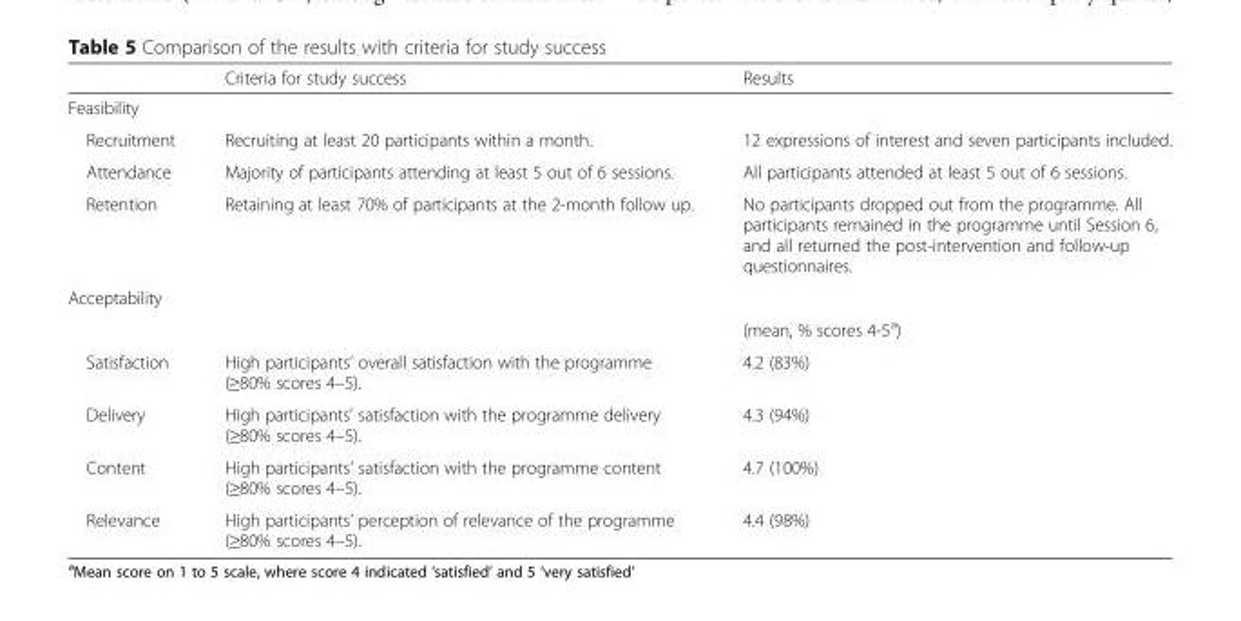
<table><thead><tr><td></td><td>Criteria for study success</td><td>Results</td></tr></thead><tbody><tr><td colspan="3">Feasibility</td></tr><tr><td>Recruitment</td><td>Recruiting at least 20 participants within a month.</td><td>12 expressions of interest and seven participants included.</td></tr><tr><td>Attendance</td><td>Majority of participants attending at least 5 out of 6 sessions.</td><td>All participants attended at least 5 out of 6 sessions.</td></tr><tr><td>Retention</td><td>Retaining at least 70% of participants at the 2-month follow up.</td><td>No participants dropped out from the programme. All participants remained in the programme until Session 6, and all returned the post-intervention and follow-up questionnaires.</td></tr><tr><td colspan="3">Acceptability</td></tr><tr><td></td><td></td><td>(mean, % scores 4-5<sup>a</sup>)</td></tr><tr><td>Satisfaction</td><td>High participants’ overall satisfaction with the programme (≥80% scores 4–5).</td><td>4.2 (83%)</td></tr><tr><td>Delivery</td><td>High participants’ satisfaction with the programme delivery (≥80% scores 4–5).</td><td>4.3 (94%)</td></tr><tr><td>Content</td><td>High participants’ satisfaction with the programme content (≥80% scores 4–5).</td><td>4.7 (100%)</td></tr><tr><td>Relevance</td><td>High participants’ perception of relevance of the programme (≥80% scores 4–5).</td><td>4.4 (98%)</td></tr></tbody></table>